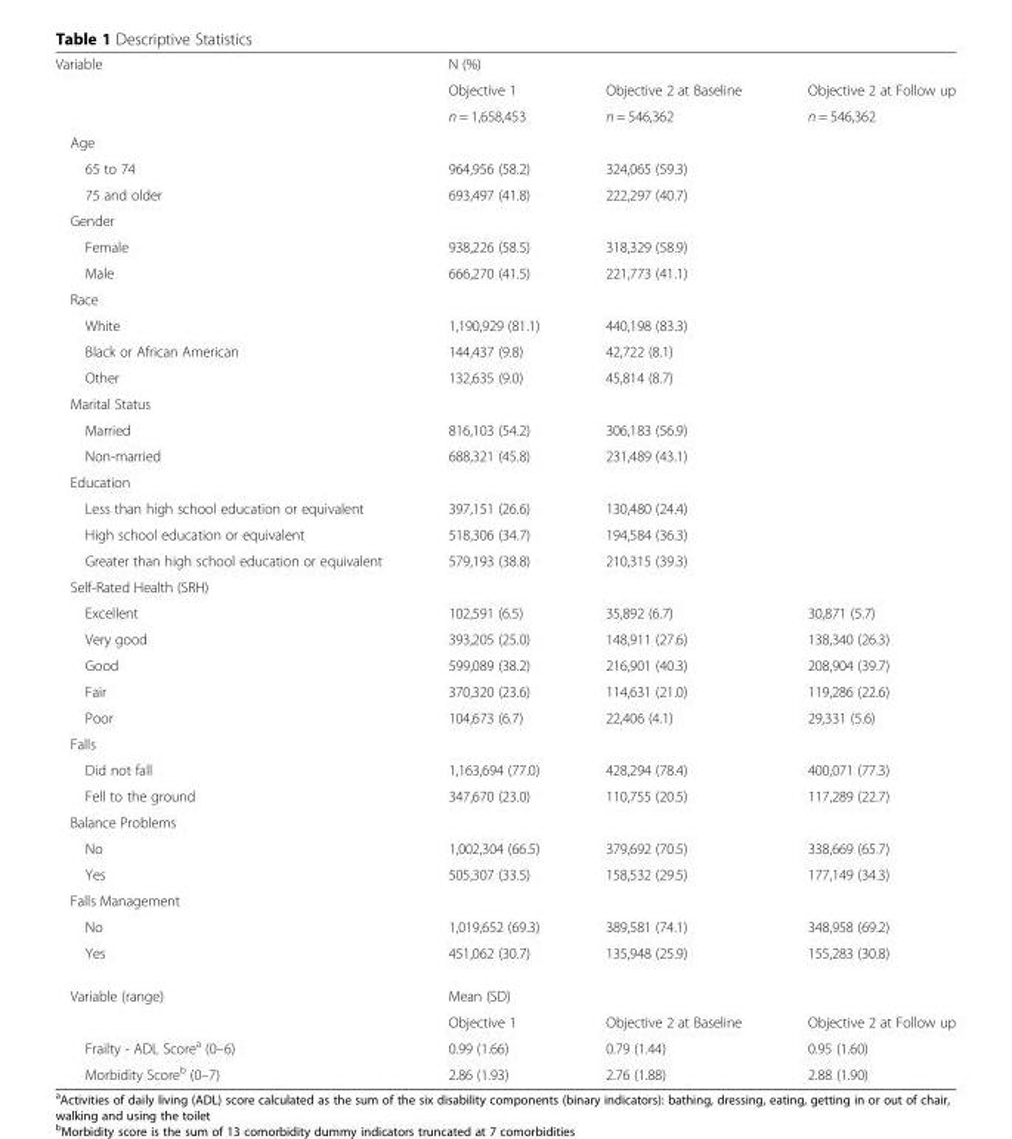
<table><tbody><tr><td rowspan="3">Variable</td><td colspan="3">N (%)</td></tr><tr><td>Objective 1</td><td>Objective 2 at Baseline</td><td>Objective 2 at Follow up</td></tr><tr><td>n = 1,658,453</td><td>n = 546,362</td><td>n = 546,362</td></tr><tr><td colspan="4">Age</td></tr><tr><td>65 to 74</td><td>964,956 (58.2)</td><td>324,065 (59.3)</td><td></td></tr><tr><td>75 and older</td><td>693,497 (41.8)</td><td>222,297 (40.7)</td><td></td></tr><tr><td colspan="4">Gender</td></tr><tr><td>Female</td><td>938,226 (58.5)</td><td>318,329 (58.9)</td><td></td></tr><tr><td>Male</td><td>666,270 (41.5)</td><td>221,773 (41.1)</td><td></td></tr><tr><td colspan="4">Race</td></tr><tr><td>White</td><td>1,190,929 (81.1)</td><td>440,198 (83.3)</td><td></td></tr><tr><td>Black or African American</td><td>144,437 (9.8)</td><td>42,722 (8.1)</td><td></td></tr><tr><td>Other</td><td>132,635 (9.0)</td><td>45,814 (8.7)</td><td></td></tr><tr><td colspan="4">Marital Status</td></tr><tr><td>Married</td><td>816,103 (54.2)</td><td>306,183 (56.9)</td><td></td></tr><tr><td>Non-married</td><td>688,321 (45.8)</td><td>231,489 (43.1)</td><td></td></tr><tr><td colspan="4">Education</td></tr><tr><td>Less than high school education or equivalent</td><td>397,151 (26.6)</td><td>130,480 (24.4)</td><td></td></tr><tr><td>High school education or equivalent</td><td>518,306 (34.7)</td><td>194,584 (36.3)</td><td></td></tr><tr><td>Greater than high school education or equivalent</td><td>579,193 (38.8)</td><td>210,315 (39.3)</td><td></td></tr><tr><td colspan="4">Self-Rated Health (SRH)</td></tr><tr><td>Excellent</td><td>102,591 (6.5)</td><td>35,892 (6.7)</td><td>30,871 (5.7)</td></tr><tr><td>Very good</td><td>393,205 (25.0)</td><td>148,911 (27.6)</td><td>138,340 (26.3)</td></tr><tr><td>Good</td><td>599,089 (38.2)</td><td>216,901 (40.3)</td><td>208,904 (39.7)</td></tr><tr><td>Fair</td><td>370,320 (23.6)</td><td>114,631 (21.0)</td><td>119,286 (22.6)</td></tr><tr><td>Poor</td><td>104,673 (6.7)</td><td>22,406 (4.1)</td><td>29,331 (5.6)</td></tr><tr><td colspan="4">Falls</td></tr><tr><td>Did not fall</td><td>1,163,694 (77.0)</td><td>428,294 (78.4)</td><td>400,071 (77.3)</td></tr><tr><td>Fell to the ground</td><td>347,670 (23.0)</td><td>110,755 (20.5)</td><td>117,289 (22.7)</td></tr><tr><td colspan="4">Balance Problems</td></tr><tr><td>No</td><td>1,002,304 (66.5)</td><td>379,692 (70.5)</td><td>338,669 (65.7)</td></tr><tr><td>Yes</td><td>505,307 (33.5)</td><td>158,532 (29.5)</td><td>177,149 (34.3)</td></tr><tr><td colspan="4">Falls Management</td></tr><tr><td>No</td><td>1,019,652 (69.3)</td><td>389,581 (74.1)</td><td>348,958 (69.2)</td></tr><tr><td>Yes</td><td>451,062 (30.7)</td><td>135,948 (25.9)</td><td>155,283 (30.8)</td></tr><tr><td rowspan="2">Variable (range)</td><td colspan="3">Mean (SD)</td></tr><tr><td>Objective 1</td><td>Objective 2 at Baseline</td><td>Objective 2 at Follow up</td></tr><tr><td>Frailty - ADL Score<sup>a</sup> (0–6)</td><td>0.99 (1.66)</td><td>0.79 (1.44)</td><td>0.95 (1.60)</td></tr><tr><td>Morbidity Score<sup>b</sup> (0–7)</td><td>2.86 (1.93)</td><td>2.76 (1.88)</td><td>2.88 (1.90)</td></tr></tbody></table>